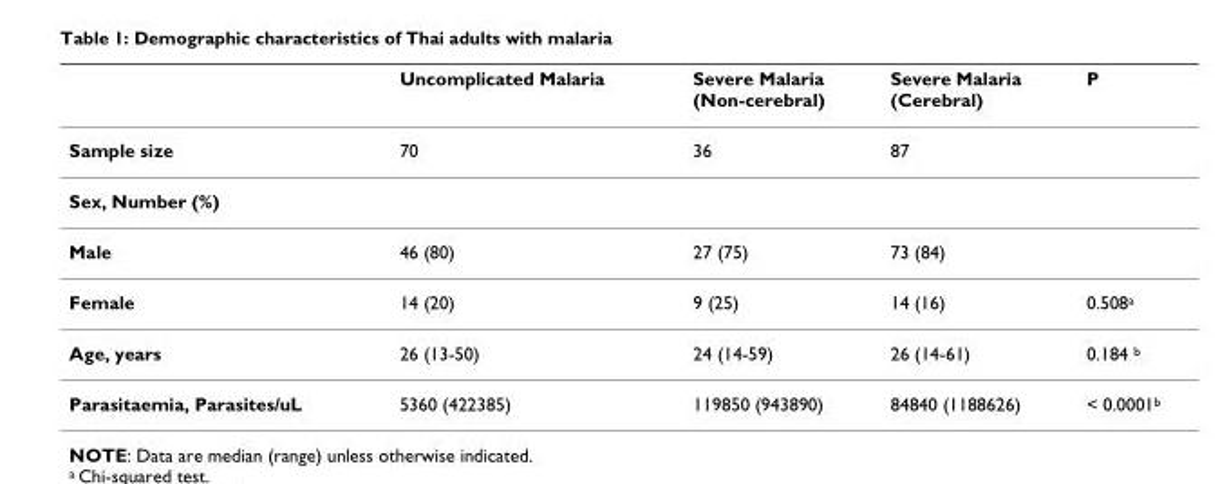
<table><thead><tr><td></td><td>Uncomplicated Malaria</td><td>Severe Malaria (Non-cerebral)</td><td>Severe Malaria (Cerebral)</td><td>P</td></tr></thead><tbody><tr><td>Sample size</td><td>70</td><td>36</td><td>87</td><td></td></tr><tr><td colspan="5">Sex, Number (%)</td></tr><tr><td>Male</td><td>46 (80)</td><td>27 (75)</td><td>73 (84)</td><td></td></tr><tr><td>Female</td><td>14 (20)</td><td>9 (25)</td><td>14 (16)</td><td>0.508<sup>a</sup></td></tr><tr><td>Age, years</td><td>26 (13-50)</td><td>24 (14-59)</td><td>26 (14-61)</td><td>0.184 <sup>b</sup></td></tr><tr><td>Parasitaemia, Parasites/uL</td><td>5360 (422385)</td><td>119850 (943890)</td><td>84840 (1188626)</td><td>&lt; 0.0001<sup>b</sup></td></tr></tbody></table>